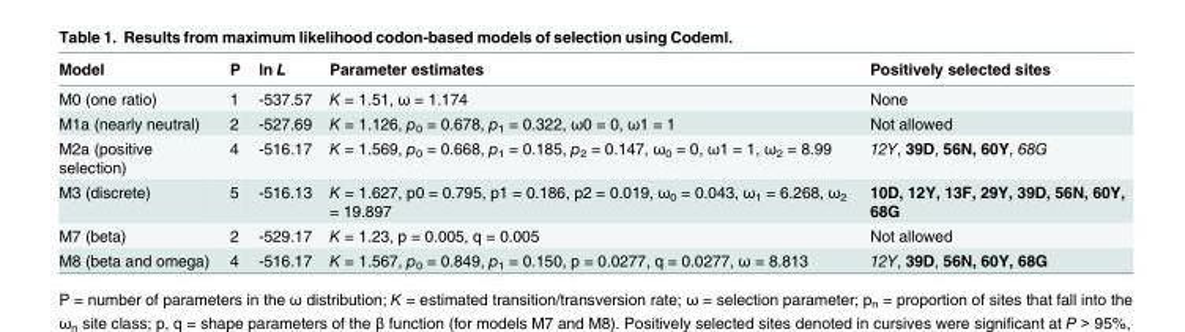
<table><thead><tr><td>Model</td><td>P</td><td>ln L</td><td>Parameter estimates</td><td>Positively selected sites</td></tr></thead><tbody><tr><td>M0 (one ratio)</td><td>1</td><td>-537.57</td><td>K = 1.51, ω = 1.174</td><td>None</td></tr><tr><td>M1a (nearly neutral)</td><td>2</td><td>-527.69</td><td>K = 1.126, p<sub>0</sub> = 0.678, p<sub>1</sub> = 0.322, ω0 = 0, ω1 = 1</td><td>Not allowed</td></tr><tr><td>M2a (positive selection)</td><td>4</td><td>-516.17</td><td>K = 1.569, p<sub>0</sub> = 0.668, p<sub>1</sub> = 0.185, p<sub>2</sub> = 0.147, ω<sub>0</sub> = 0, ω1 = 1, ω<sub>2</sub> = 8.99</td><td>12Y, 39D, 56N, 60Y, 68G</td></tr><tr><td>M3 (discrete)</td><td>5</td><td>-516.13</td><td>K = 1.627, p0 = 0.795, p1 = 0.186, p2 = 0.019, ω<sub>0</sub> = 0.043, ω<sub>1</sub> = 6.268, ω<sub>2</sub> = 19.897</td><td>10D, 12Y, 13F, 29Y, 39D, 56N, 60Y, 68G</td></tr><tr><td>M7 (beta)</td><td>2</td><td>-529.17</td><td>K = 1.23, p = 0.005, q = 0.005</td><td>Not allowed</td></tr><tr><td>M8 (beta and omega)</td><td>4</td><td>-516.17</td><td>K = 1.567, p<sub>0</sub> = 0.849, p<sub>1</sub> = 0.150, p = 0.0277, q = 0.0277, ω = 8.813</td><td>12Y, 39D, 56N, 60Y, 68G</td></tr></tbody></table>